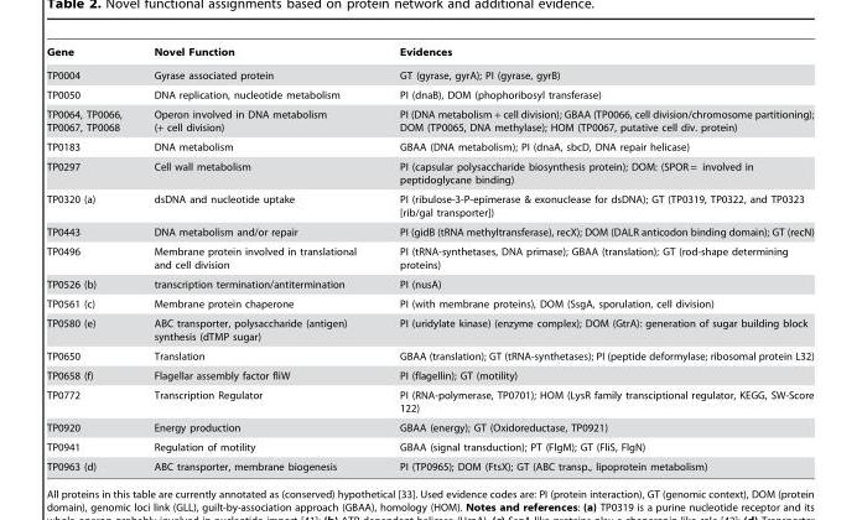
<table><thead><tr><td>Gene</td><td>Novel Function</td><td>Evidences</td></tr></thead><tbody><tr><td>TP0004</td><td>Gyrase associated protein</td><td>GT (gyrase, gyrA); PI (gyrase, gyrB)</td></tr><tr><td>TP0050</td><td>DNA replication, nucleotide metabolism</td><td>PI (dnaB), DOM (phophoribosyl transferase)</td></tr><tr><td>TP0064, TP0066, TP0067, TP0068</td><td>Operon involved in DNA metabolism (+ cell division)</td><td>PI (DNA metabolism + cell division); GBAA (TP0066, cell division/chromosome partitioning); DOM (TP0065, DNA methylase); HOM (TP0067, putative cell div. protein)</td></tr><tr><td>TP0183</td><td>DNA metabolism</td><td>GBAA (DNA metabolism); PI (dnaA, sbcD, DNA repair helicase)</td></tr><tr><td>TP0297</td><td>Cell wall metabolism</td><td>PI (capsular polysaccharide biosynthesis protein); DOM: (SPOR = involved in peptidoglycane binding)</td></tr><tr><td>TP0320 (a)</td><td>dsDNA and nucleotide uptake</td><td>PI (ribulose-3-P-epimerase &amp; exonuclease for dsDNA); GT (TP0319, TP0322, and TP0323 [rib/gal transporter])</td></tr><tr><td>TP0443</td><td>DNA metabolism and/or repair</td><td>PI (gidB (tRNA methyltransferase), recX); DOM (DALR anticodon binding domain); GT (recN)</td></tr><tr><td>TP0496</td><td>Membrane protein involved in translational and cell division</td><td>PI (tRNA-synthetases, DNA primase); GBAA (translation); GT (rod-shape determining proteins)</td></tr><tr><td>TP0526 (b)</td><td>transcription termination/antitermination</td><td>PI (nusA)</td></tr><tr><td>TP0561 (c)</td><td>Membrane protein chaperone</td><td>PI (with membrane proteins), DOM (SsgA, sporulation, cell division)</td></tr><tr><td>TP0580 (e)</td><td>ABC transporter, polysaccharide (antigen) synthesis (dTMP sugar)</td><td>PI (uridylate kinase) (enzyme complex); DOM (GtrA): generation of sugar building block</td></tr><tr><td>TP0650</td><td>Translation</td><td>GBAA (translation); GT (tRNA-synthetases); PI (peptide deformylase; ribosomal protein L32)</td></tr><tr><td>TP0658 (f)</td><td>Flagellar assembly factor fliW</td><td>PI (flagellin); GT (motility)</td></tr><tr><td>TP0772</td><td>Transcription Regulator</td><td>PI (RNA-polymerase, TP0701); HOM (LysR family transciptional regulator, KEGG, SW-Score 122)</td></tr><tr><td>TP0920</td><td>Energy production</td><td>GBAA (energy); GT (Oxidoreductase, TP0921)</td></tr><tr><td>TP0941</td><td>Regulation of motility</td><td>GBAA (signal transduction); PT (FlgM); GT (FliS, FlgN)</td></tr><tr><td>TP0963 (d)</td><td>ABC transporter, membrane biogenesis</td><td>PI (TP0965); DOM (FtsX); GT (ABC transp., lipoprotein metabolism)</td></tr></tbody></table>